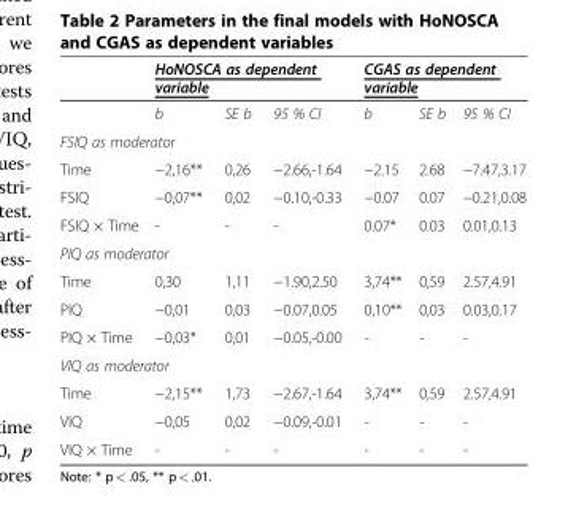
<table><thead><tr><td rowspan="2"></td><td colspan="3">HoNOSCA as dependent variable</td><td colspan="3">CGAS as dependent variable</td></tr><tr><td>b</td><td>SE b</td><td>95 % CI</td><td>b</td><td>SE b</td><td>95 % CI</td></tr></thead><tbody><tr><td colspan="7">FSIQ as moderator</td></tr><tr><td>Time</td><td>−2,16**</td><td>0,26</td><td>−2.66,-1.64</td><td>−2.15</td><td>2.68</td><td>−7.47,3.17</td></tr><tr><td>FSIQ</td><td>−0,07**</td><td>0,02</td><td>−0.10,-0.33</td><td>−0.07</td><td>0.07</td><td>−0.21,0.08</td></tr><tr><td>FSIQ × Time</td><td>-</td><td>-</td><td>-</td><td>0.07*</td><td>0.03</td><td>0.01,0.13</td></tr><tr><td colspan="7">PIQ as moderator</td></tr><tr><td>Time</td><td>0,30</td><td>1,11</td><td>−1.90,2.50</td><td>3,74**</td><td>0,59</td><td>2.57,4.91</td></tr><tr><td>PIQ</td><td>−0,01</td><td>0,03</td><td>−0.07,0.05</td><td>0,10**</td><td>0,03</td><td>0.03,0.17</td></tr><tr><td>PIQ × Time</td><td>−0,03*</td><td>0,01</td><td>−0.05,-0.00</td><td>-</td><td>-</td><td>-</td></tr><tr><td colspan="7">VIQ as moderator</td></tr><tr><td>Time</td><td>−2,15**</td><td>1,73</td><td>−2.67,-1.64</td><td>3,74**</td><td>0,59</td><td>2.57,4.91</td></tr><tr><td>VIQ</td><td>−0,05</td><td>0,02</td><td>−0.09,-0.01</td><td>-</td><td>-</td><td>-</td></tr><tr><td>VIQ × Time</td><td>-</td><td>-</td><td>-</td><td>-</td><td>-</td><td>-</td></tr></tbody></table>